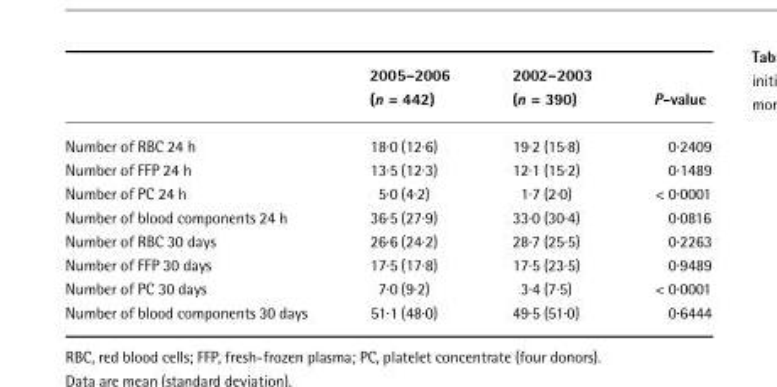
<table><thead><tr><td></td><td>2005–2006 (n = 442)</td><td>2002–2003 (n = 390)</td><td>P-value</td></tr></thead><tbody><tr><td>Number of RBC 24 h</td><td>18·0 (12·6)</td><td>19·2 (15·8)</td><td>0·2409</td></tr><tr><td>Number of FFP 24 h</td><td>13·5 (12·3)</td><td>12·1 (15·2)</td><td>0·1489</td></tr><tr><td>Number of PC 24 h</td><td>5·0 (4·2)</td><td>1·7 (2·0)</td><td>&lt; 0·0001</td></tr><tr><td>Number of blood components 24 h</td><td>36·5 (27·9)</td><td>33·0 (30·4)</td><td>0·0816</td></tr><tr><td>Number of RBC 30 days</td><td>26·6 (24·2)</td><td>28·7 (25·5)</td><td>0·2263</td></tr><tr><td>Number of FFP 30 days</td><td>17·5 (17·8)</td><td>17·5 (23·5)</td><td>0·9489</td></tr><tr><td>Number of PC 30 days</td><td>7·0 (9·2)</td><td>3·4 (7·5)</td><td>&lt; 0·0001</td></tr><tr><td>Number of blood components 30 days</td><td>51·1 (48·0)</td><td>49·5 (51·0)</td><td>0·6444</td></tr></tbody></table>